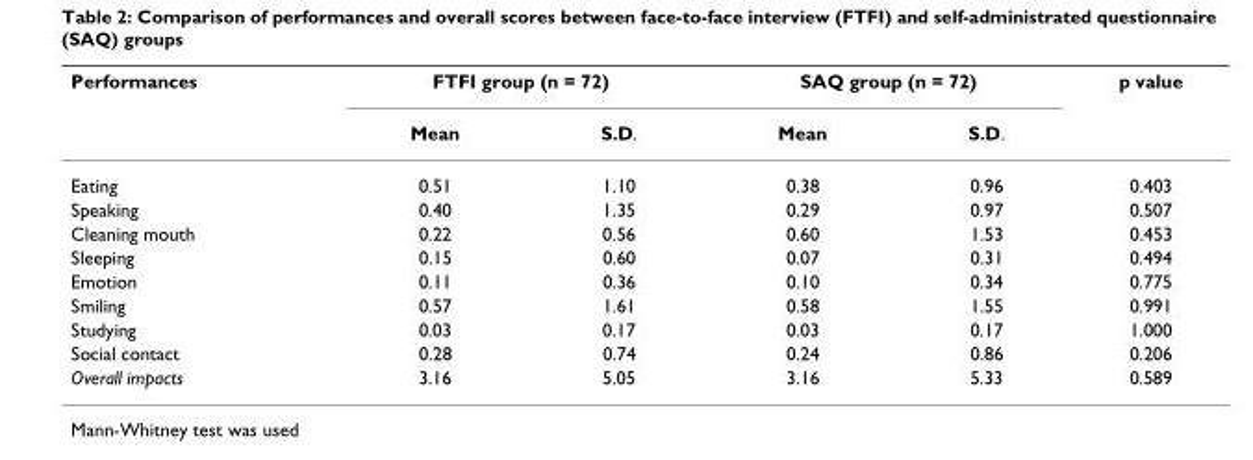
<table><thead><tr><td rowspan="2">Performances</td><td colspan="2">FTFI group (n = 72)</td><td colspan="2">SAQ group (n = 72)</td><td rowspan="2">p value</td></tr><tr><td>Mean</td><td>S.D.</td><td>Mean</td><td>S.D.</td></tr></thead><tbody><tr><td>Eating</td><td>0.51</td><td>1.10</td><td>0.38</td><td>0.96</td><td>0.403</td></tr><tr><td>Speaking</td><td>0.40</td><td>1.35</td><td>0.29</td><td>0.97</td><td>0.507</td></tr><tr><td>Cleaning mouth</td><td>0.22</td><td>0.56</td><td>0.60</td><td>1.53</td><td>0.453</td></tr><tr><td>Sleeping</td><td>0.15</td><td>0.60</td><td>0.07</td><td>0.31</td><td>0.494</td></tr><tr><td>Emotion</td><td>0.11</td><td>0.36</td><td>0.10</td><td>0.34</td><td>0.775</td></tr><tr><td>Smiling</td><td>0.57</td><td>1.61</td><td>0.58</td><td>1.55</td><td>0.991</td></tr><tr><td>Studying</td><td>0.03</td><td>0.17</td><td>0.03</td><td>0.17</td><td>1.000</td></tr><tr><td>Social contact</td><td>0.28</td><td>0.74</td><td>0.24</td><td>0.86</td><td>0.206</td></tr><tr><td>Overall impacts</td><td>3.16</td><td>5.05</td><td>3.16</td><td>5.33</td><td>0.589</td></tr></tbody></table>